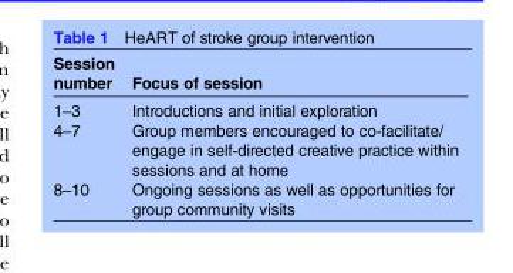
<table><thead><tr><td>Session number</td><td>Focus of session</td></tr></thead><tbody><tr><td>1–3</td><td>Introductions and initial exploration</td></tr><tr><td>4–7</td><td>Group members encouraged to co-facilitate/ engage in self-directed creative practice within sessions and at home</td></tr><tr><td>8–10</td><td>Ongoing sessions as well as opportunities for group community visits</td></tr></tbody></table>